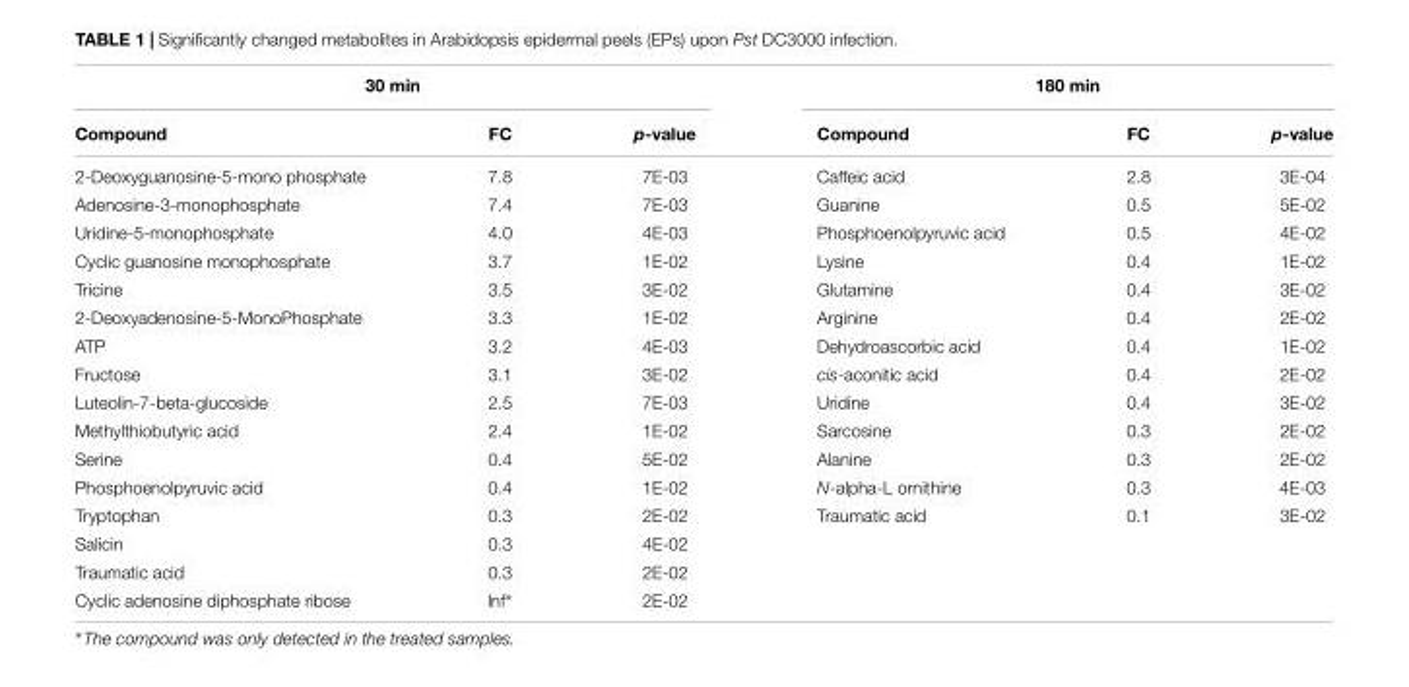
<table><thead><tr><td colspan="3">30 min</td><td colspan="3">180 min</td></tr><tr><td>Compound</td><td>FC</td><td>p-value</td><td>Compound</td><td>FC</td><td>p-value</td></tr></thead><tbody><tr><td>2-Deoxyguanosine-5-mono phosphate</td><td>7.8</td><td>7E-03</td><td>Caffeic acid</td><td>2.8</td><td>3E-04</td></tr><tr><td>Adenosine-3-monophosphate</td><td>7.4</td><td>7E-03</td><td>Guanine</td><td>0.5</td><td>5E-02</td></tr><tr><td>Uridine-5-monophosphate</td><td>4.0</td><td>4E-03</td><td>Phosphoenolpyruvic acid</td><td>0.5</td><td>4E-02</td></tr><tr><td>Cyclic guanosine monophosphate</td><td>3.7</td><td>1E-02</td><td>Lysine</td><td>0.4</td><td>1E-02</td></tr><tr><td>Tricine</td><td>3.5</td><td>3E-02</td><td>Glutamine</td><td>0.4</td><td>3E-02</td></tr><tr><td>2-Deoxyadenosine-5-MonoPhosphate</td><td>3.3</td><td>1E-02</td><td>Arginine</td><td>0.4</td><td>2E-02</td></tr><tr><td>ATP</td><td>3.2</td><td>4E-03</td><td>Dehydroascorbic acid</td><td>0.4</td><td>1E-02</td></tr><tr><td>Fructose</td><td>3.1</td><td>3E-02</td><td>cis-aconitic acid</td><td>0.4</td><td>2E-02</td></tr><tr><td>Luteolin-7-beta-glucoside</td><td>2.5</td><td>7E-03</td><td>Uridine</td><td>0.4</td><td>3E-02</td></tr><tr><td>Methylthiobutyric acid</td><td>2.4</td><td>1E-02</td><td>Sarcosine</td><td>0.3</td><td>2E-02</td></tr><tr><td>Serine</td><td>0.4</td><td>5E-02</td><td>Alanine</td><td>0.3</td><td>2E-02</td></tr><tr><td>Phosphoenolpyruvic acid</td><td>0.4</td><td>1E-02</td><td>N-alpha-L ornithine</td><td>0.3</td><td>4E-03</td></tr><tr><td>Tryptophan</td><td>0.3</td><td>2E-02</td><td>Traumatic acid</td><td>0.1</td><td>3E-02</td></tr><tr><td>Salicin</td><td>0.3</td><td>4E-02</td><td></td><td></td><td></td></tr><tr><td>Traumatic acid</td><td>0.3</td><td>2E-02</td><td></td><td></td><td></td></tr><tr><td>Cyclic adenosine diphosphate ribose</td><td>Inf∗</td><td>2E-02</td><td></td><td></td><td></td></tr></tbody></table>